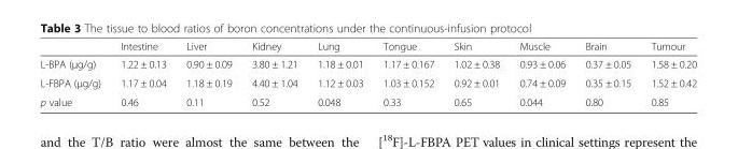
<table><thead><tr><td></td><td>Intestine</td><td>Liver</td><td>Kidney</td><td>Lung</td><td>Tongue</td><td>Skin</td><td>Muscle</td><td>Brain</td><td>Tumour</td></tr></thead><tbody><tr><td>L-BPA (μg/g)</td><td>1.22 ± 0.13</td><td>0.90 ± 0.09</td><td>3.80 ± 1.21</td><td>1.18 ± 0.01</td><td>1.17 ± 0.167</td><td>1.02 ± 0.38</td><td>0.93 ± 0.06</td><td>0.37 ± 0.05</td><td>1.58 ± 0.20</td></tr><tr><td>L-FBPA (μg/g)</td><td>1.17 ± 0.04</td><td>1.18 ± 0.19</td><td>4.40 ± 1.04</td><td>1.12 ± 0.03</td><td>1.03 ± 0.152</td><td>0.92 ± 0.01</td><td>0.74 ± 0.09</td><td>0.35 ± 0.15</td><td>1.52 ± 0.42</td></tr><tr><td>p value</td><td>0.46</td><td>0.11</td><td>0.52</td><td>0.048</td><td>0.33</td><td>0.65</td><td>0.044</td><td>0.80</td><td>0.85</td></tr></tbody></table>